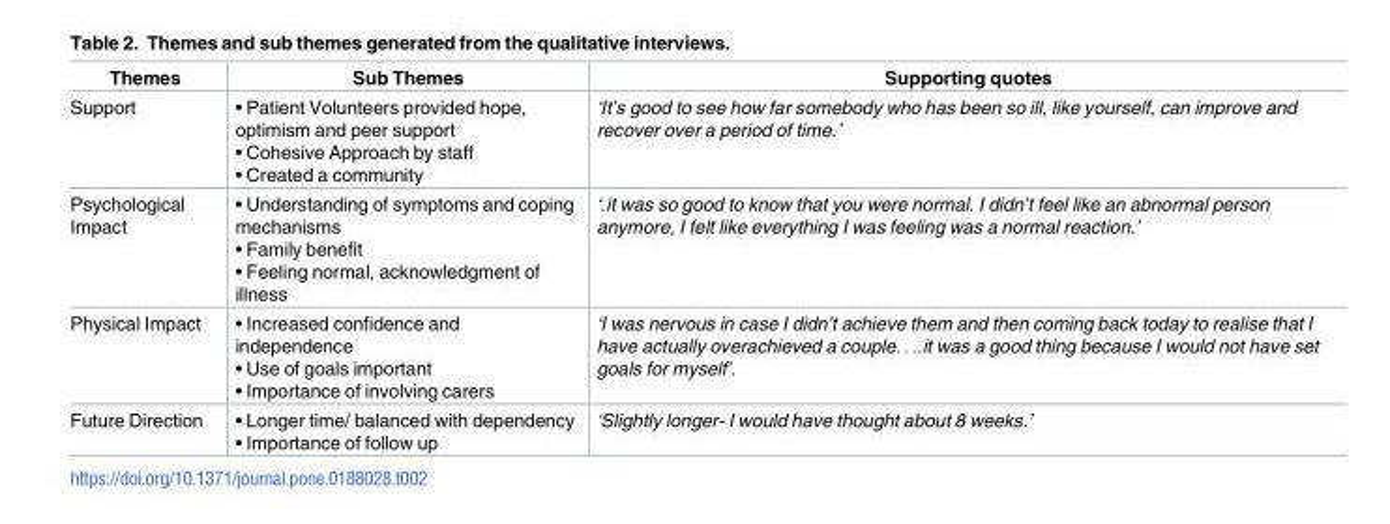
<table><thead><tr><td>Themes</td><td>Sub Themes</td><td>Supporting quotes</td></tr></thead><tbody><tr><td>Support</td><td>• Patient Volunteers provided hope, optimism and peer support • Cohesive Approach by staff • Created a community</td><td>‘It’s good to see how far somebody who has been so ill, like yourself, can improve and recover over a period of time.’</td></tr><tr><td>Psychological Impact</td><td>• Understanding of symptoms and coping mechanisms • Family benefit • Feeling normal, acknowledgment of illness</td><td>‘.it was so good to know that you were normal. I didn’t feel like an abnormal person anymore, I felt like everything I was feeling was a normal reaction.’</td></tr><tr><td>Physical Impact</td><td>• Increased confidence and independence • Use of goals important • Importance of involving carers</td><td>‘I was nervous in case I didn’t achieve them and then coming back today to realise that I have actually overachieved a couple. . ..it was a good thing because I would not have set goals for myself’.</td></tr><tr><td>Future Direction</td><td>• Longer time/ balanced with dependency • Importance of follow up</td><td>‘Slightly longer- I would have thought about 8 weeks.’</td></tr></tbody></table>